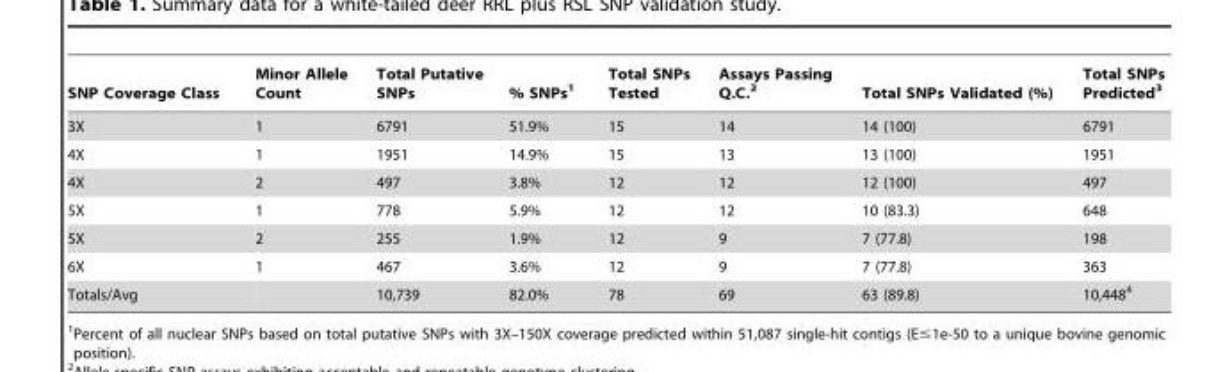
<table><thead><tr><td>SNP Coverage Class</td><td>Minor Allele Count</td><td>Total Putative SNPs</td><td>% SNPs<sup>1</sup></td><td>Total SNPs Tested</td><td>Assays Passing Q.C.<sup>2</sup></td><td>Total SNPs Validated (%)</td><td>Total SNPs Predicted<sup>3</sup></td></tr></thead><tbody><tr><td>3X</td><td>1</td><td>6791</td><td>51.9%</td><td>15</td><td>14</td><td>14 (100)</td><td>6791</td></tr><tr><td>4X</td><td>1</td><td>1951</td><td>14.9%</td><td>15</td><td>13</td><td>13 (100)</td><td>1951</td></tr><tr><td>4X</td><td>2</td><td>497</td><td>3.8%</td><td>12</td><td>12</td><td>12 (100)</td><td>497</td></tr><tr><td>5X</td><td>1</td><td>778</td><td>5.9%</td><td>12</td><td>12</td><td>10 (83.3)</td><td>648</td></tr><tr><td>5X</td><td>2</td><td>255</td><td>1.9%</td><td>12</td><td>9</td><td>7 (77.8)</td><td>198</td></tr><tr><td>6X</td><td>1</td><td>467</td><td>3.6%</td><td>12</td><td>9</td><td>7 (77.8)</td><td>363</td></tr><tr><td>Totals/Avg</td><td></td><td>10,739</td><td>82.0%</td><td>78</td><td>69</td><td>63 (89.8)</td><td>10,448<sup>4</sup></td></tr></tbody></table>